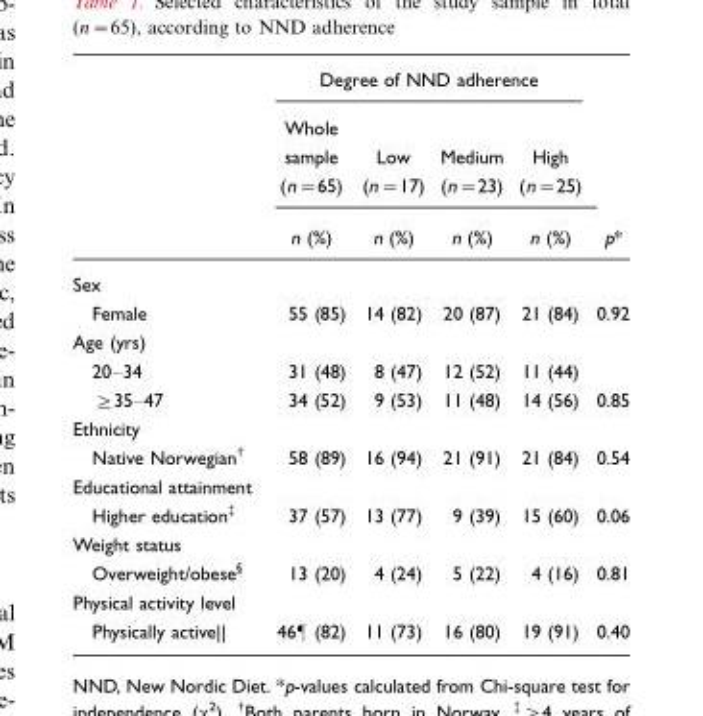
<table><thead><tr><td rowspan="3"></td><td colspan="4">Degree of NND adherence</td><td rowspan="3">p*</td></tr><tr><td rowspan="2">Whole sample (n=65) n (%)</td><td rowspan="2">Low (n=17) n (%)</td><td rowspan="2">Medium (n=23) n (%)</td><td rowspan="2">High (n=25) n (%)</td></tr><tr></tr></thead><tbody><tr><td colspan="6">Sex</td></tr><tr><td>Female</td><td>55 (85)</td><td>14 (82)</td><td>20 (87)</td><td>21 (84)</td><td>0.92</td></tr><tr><td colspan="6">Age (yrs)</td></tr><tr><td>20–34</td><td>31 (48)</td><td>8 (47)</td><td>12 (52)</td><td>11 (44)</td><td></td></tr><tr><td>≥35–47</td><td>34 (52)</td><td>9 (53)</td><td>11 (48)</td><td>14 (56)</td><td>0.85</td></tr><tr><td colspan="6">Ethnicity</td></tr><tr><td>Native Norwegian†</td><td>58 (89)</td><td>16 (94)</td><td>21 (91)</td><td>21 (84)</td><td>0.54</td></tr><tr><td colspan="6">Educational attainment</td></tr><tr><td>Higher education‡</td><td>37 (57)</td><td>13 (77)</td><td>9 (39)</td><td>15 (60)</td><td>0.06</td></tr><tr><td colspan="6">Weight status</td></tr><tr><td>Overweight/obese§</td><td>13 (20)</td><td>4 (24)</td><td>5 (22)</td><td>4 (16)</td><td>0.81</td></tr><tr><td colspan="6">Physical activity level</td></tr><tr><td>Physically active||</td><td>46’ (82)</td><td>11 (73)</td><td>16 (80)</td><td>19 (91)</td><td>0.40</td></tr></tbody></table>